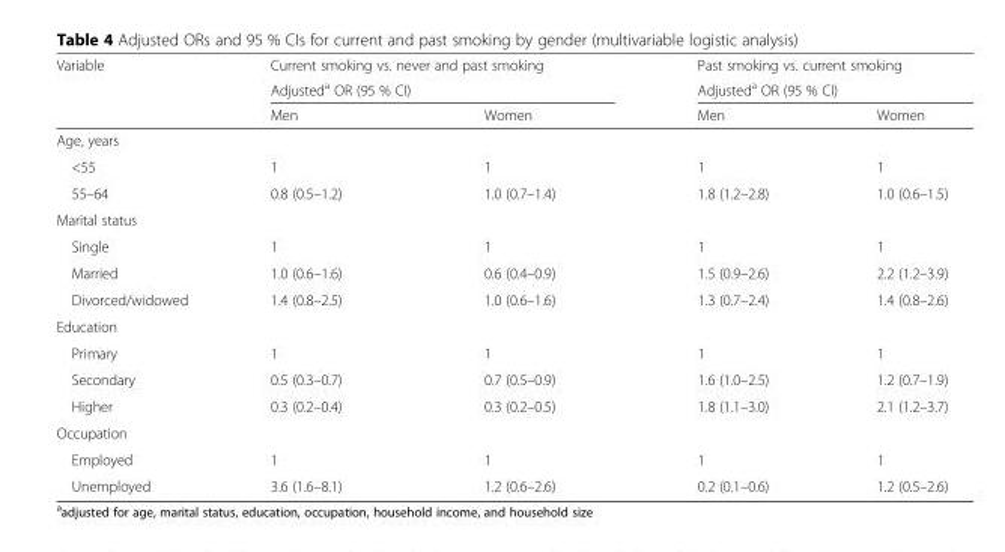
<table><thead><tr><td rowspan="3">Variable</td><td rowspan="2" colspan="2">Current smoking vs. never and past smoking Adjusted<sup>a</sup> OR (95 % CI)</td><td rowspan="2" colspan="2">Past smoking vs. current smoking Adjusted<sup>a</sup> OR (95 % CI)</td></tr><tr></tr><tr><td>Men</td><td>Women</td><td>Men</td><td>Women</td></tr></thead><tbody><tr><td colspan="5">Age, years</td></tr><tr><td>&lt;55</td><td>1</td><td>1</td><td>1</td><td>1</td></tr><tr><td>55–64</td><td>0.8 (0.5–1.2)</td><td>1.0 (0.7–1.4)</td><td>1.8 (1.2–2.8)</td><td>1.0 (0.6–1.5)</td></tr><tr><td colspan="5">Marital status</td></tr><tr><td>Single</td><td>1</td><td>1</td><td>1</td><td>1</td></tr><tr><td>Married</td><td>1.0 (0.6–1.6)</td><td>0.6 (0.4–0.9)</td><td>1.5 (0.9–2.6)</td><td>2.2 (1.2–3.9)</td></tr><tr><td>Divorced/widowed</td><td>1.4 (0.8–2.5)</td><td>1.0 (0.6–1.6)</td><td>1.3 (0.7–2.4)</td><td>1.4 (0.8–2.6)</td></tr><tr><td colspan="5">Education</td></tr><tr><td>Primary</td><td>1</td><td>1</td><td>1</td><td>1</td></tr><tr><td>Secondary</td><td>0.5 (0.3–0.7)</td><td>0.7 (0.5–0.9)</td><td>1.6 (1.0–2.5)</td><td>1.2 (0.7–1.9)</td></tr><tr><td>Higher</td><td>0.3 (0.2–0.4)</td><td>0.3 (0.2–0.5)</td><td>1.8 (1.1–3.0)</td><td>2.1 (1.2–3.7)</td></tr><tr><td colspan="5">Occupation</td></tr><tr><td>Employed</td><td>1</td><td>1</td><td>1</td><td>1</td></tr><tr><td>Unemployed</td><td>3.6 (1.6–8.1)</td><td>1.2 (0.6–2.6)</td><td>0.2 (0.1–0.6)</td><td>1.2 (0.5–2.6)</td></tr></tbody></table>